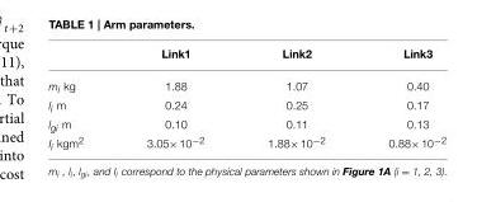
<table><thead><tr><td></td><td>Link1</td><td>Link2</td><td>Link3</td></tr></thead><tbody><tr><td>m<sub>i</sub> kg</td><td>1.88</td><td>1.07</td><td>0.40</td></tr><tr><td>l<sub>i</sub> m</td><td>0.24</td><td>0.25</td><td>0.17</td></tr><tr><td>l<sub>gi</sub> m</td><td>0.10</td><td>0.11</td><td>0.13</td></tr><tr><td>I<sub>i</sub> kgm<sup>2</sup></td><td>3.05× 10<sup>−2</sup></td><td>1.88× 10<sup>−2</sup></td><td>0.88× 10<sup>−2</sup></td></tr></tbody></table>